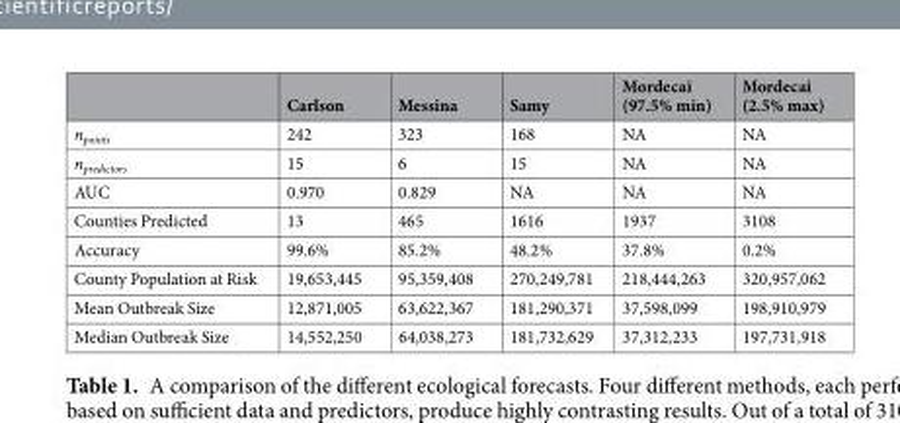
<table><thead><tr><td></td><td>Carlson</td><td>Messina</td><td>Samy</td><td>Mordecai (97.5% min)</td><td>Mordecai (2.5% max)</td></tr></thead><tbody><tr><td>n<sub>points</sub></td><td>242</td><td>323</td><td>168</td><td>NA</td><td>NA</td></tr><tr><td>n<sub>predictors</sub></td><td>15</td><td>6</td><td>15</td><td>NA</td><td>NA</td></tr><tr><td>AUC</td><td>0.970</td><td>0.829</td><td>NA</td><td>NA</td><td>NA</td></tr><tr><td>Counties Predicted</td><td>13</td><td>465</td><td>1616</td><td>1937</td><td>3108</td></tr><tr><td>Accuracy</td><td>99.6%</td><td>85.2%</td><td>48.2%</td><td>37.8%</td><td>0.2%</td></tr><tr><td>County Population at Risk</td><td>19,653,445</td><td>95,359,408</td><td>270,249,781</td><td>218,444,263</td><td>320,957,062</td></tr><tr><td>Mean Outbreak Size</td><td>12,871,005</td><td>63,622,367</td><td>181,290,371</td><td>37,598,099</td><td>198,910,979</td></tr><tr><td>Median Outbreak Size</td><td>14,552,250</td><td>64,038,273</td><td>181,732,629</td><td>37,312,233</td><td>197,731,918</td></tr></tbody></table>